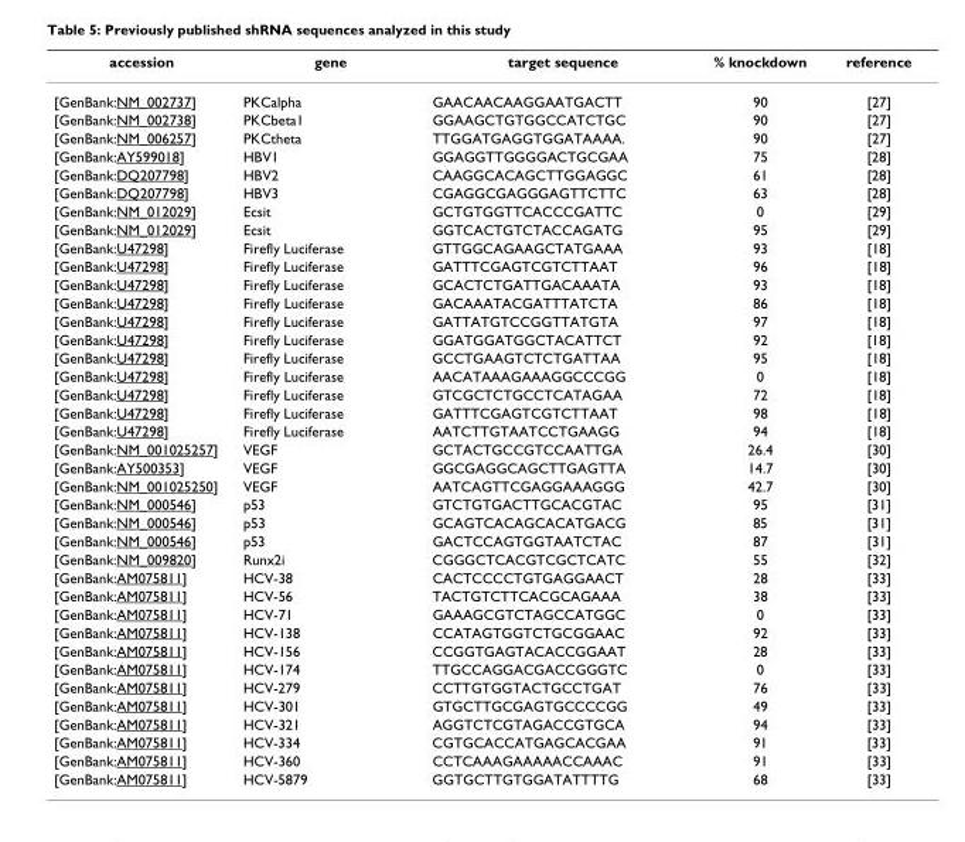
<table><thead><tr><td>accession</td><td>gene</td><td>target sequence</td><td>% knockdown</td><td>reference</td></tr></thead><tbody><tr><td>[GenBank:NM_002737]</td><td>PKCalpha</td><td>GAACAACAAGGAATGACTT</td><td>90</td><td>[27]</td></tr><tr><td>[GenBank:NM_002738]</td><td>PKCbeta1</td><td>GGAAGCTGTGGCCATCTGC</td><td>90</td><td>[27]</td></tr><tr><td>[GenBank:NM_006257]</td><td>PKCtheta</td><td>TTGGATGAGGTGGATAAAA.</td><td>90</td><td>[27]</td></tr><tr><td>[GenBank:AY599018]</td><td>HBV1</td><td>GGAGGTTGGGGACTGCGAA</td><td>75</td><td>[28]</td></tr><tr><td>[GenBank:DQ207798]</td><td>HBV2</td><td>CAAGGCACAGCTTGGAGGC</td><td>61</td><td>[28]</td></tr><tr><td>[GenBank:DQ207798]</td><td>HBV3</td><td>CGAGGCGAGGGAGTTCTTC</td><td>63</td><td>[28]</td></tr><tr><td>[GenBank:NM_012029]</td><td>Ecsit</td><td>GCTGTGGTTCACCCGATTC</td><td>0</td><td>[29]</td></tr><tr><td>[GenBank:NM_012029]</td><td>Ecsit</td><td>GGTCACTGTCTACCAGATG</td><td>95</td><td>[29]</td></tr><tr><td>[GenBank:U47298]</td><td>Firefly Luciferase</td><td>GTTGGCAGAAGCTATGAAA</td><td>93</td><td>[18]</td></tr><tr><td>[GenBank:U47298]</td><td>Firefly Luciferase</td><td>GATTTCGAGTCGTCTTAAT</td><td>96</td><td>[18]</td></tr><tr><td>[GenBank:U47298]</td><td>Firefly Luciferase</td><td>GCACTCTGATTGACAAATA</td><td>93</td><td>[18]</td></tr><tr><td>[GenBank:U47298]</td><td>Firefly Luciferase</td><td>GACAAATACGATTTATCTA</td><td>86</td><td>[18]</td></tr><tr><td>[GenBank:U47298]</td><td>Firefly Luciferase</td><td>GATTATGTCCGGTTATGTA</td><td>97</td><td>[18]</td></tr><tr><td>[GenBank:U47298]</td><td>Firefly Luciferase</td><td>GGATGGATGGCTACATTCT</td><td>92</td><td>[18]</td></tr><tr><td>[GenBank:U47298]</td><td>Firefly Luciferase</td><td>GCCTGAAGTCTCTGATTAA</td><td>95</td><td>[18]</td></tr><tr><td>[GenBank:U47298]</td><td>Firefly Luciferase</td><td>AACATAAAGAAAGGCCCGG</td><td>0</td><td>[18]</td></tr><tr><td>[GenBank:U47298]</td><td>Firefly Luciferase</td><td>GTCGCTCTGCCTCATAGAA</td><td>72</td><td>[18]</td></tr><tr><td>[GenBank:U47298]</td><td>Firefly Luciferase</td><td>GATTTCGAGTCGTCTTAAT</td><td>98</td><td>[18]</td></tr><tr><td>[GenBank:U47298]</td><td>Firefly Luciferase</td><td>AATCTTGTAATCCTGAAGG</td><td>94</td><td>[18]</td></tr><tr><td>[GenBank:NM_001025257]</td><td>VEGF</td><td>GCTACTGCCGTCCAATTGA</td><td>26.4</td><td>[30]</td></tr><tr><td>[GenBank:AY500353]</td><td>VEGF</td><td>GGCGAGGCAGCTTGAGTTA</td><td>14.7</td><td>[30]</td></tr><tr><td>[GenBank:NM_001025250]</td><td>VEGF</td><td>AATCAGTTCGAGGAAAGGG</td><td>42.7</td><td>[30]</td></tr><tr><td>[GenBank:NM_000546]</td><td>p53</td><td>GTCTGTGACTTGCACGTAC</td><td>95</td><td>[31]</td></tr><tr><td>[GenBank:NM_000546]</td><td>p53</td><td>GCAGTCACAGCACATGACG</td><td>85</td><td>[31]</td></tr><tr><td>[GenBank:NM_000546]</td><td>p53</td><td>GACTCCAGTGGTAATCTAC</td><td>87</td><td>[31]</td></tr><tr><td>[GenBank:NM_009820]</td><td>Runx2i</td><td>CGGGCTCACGTCGCTCATC</td><td>55</td><td>[32]</td></tr><tr><td>[GenBank:AM075811]</td><td>HCV-38</td><td>CACTCCCCTGTGAGGAACT</td><td>28</td><td>[33]</td></tr><tr><td>[GenBank:AM075811]</td><td>HCV-56</td><td>TACTGTCTTCACGCAGAAA</td><td>38</td><td>[33]</td></tr><tr><td>[GenBank:AM075811]</td><td>HCV-71</td><td>GAAAGCGTCTAGCCATGGC</td><td>0</td><td>[33]</td></tr><tr><td>[GenBank:AM075811]</td><td>HCV-138</td><td>CCATAGTGGTCTGCGGAAC</td><td>92</td><td>[33]</td></tr><tr><td>[GenBank:AM075811]</td><td>HCV-156</td><td>CCGGTGAGTACACCGGAAT</td><td>28</td><td>[33]</td></tr><tr><td>[GenBank:AM075811]</td><td>HCV-174</td><td>TTGCCAGGACGACCGGGTC</td><td>0</td><td>[33]</td></tr><tr><td>[GenBank:AM075811]</td><td>HCV-279</td><td>CCTTGTGGTACTGCCTGAT</td><td>76</td><td>[33]</td></tr><tr><td>[GenBank:AM075811]</td><td>HCV-301</td><td>GTGCTTGCGAGTGCCCCGG</td><td>49</td><td>[33]</td></tr><tr><td>[GenBank:AM075811]</td><td>HCV-321</td><td>AGGTCTCGTAGACCGTGCA</td><td>94</td><td>[33]</td></tr><tr><td>[GenBank:AM075811]</td><td>HCV-334</td><td>CGTGCACCATGAGCACGAA</td><td>91</td><td>[33]</td></tr><tr><td>[GenBank:AM075811]</td><td>HCV-360</td><td>CCTCAAAGAAAAACCAAAC</td><td>91</td><td>[33]</td></tr><tr><td>[GenBank:AM075811]</td><td>HCV-5879</td><td>GGTGCTTGTGGATATTTTG</td><td>68</td><td>[33]</td></tr></tbody></table>